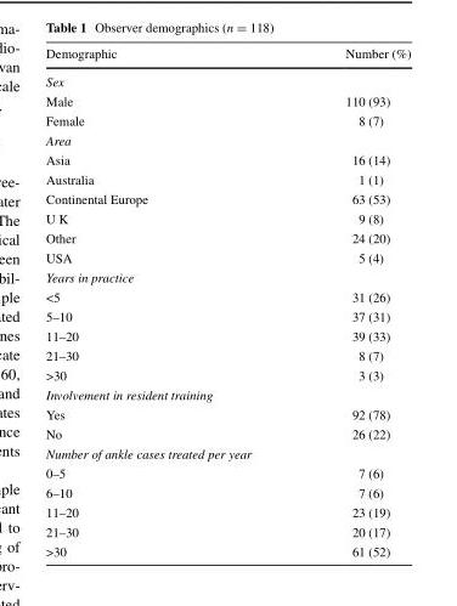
<table><thead><tr><td>Demographic</td><td>Number (%)</td></tr></thead><tbody><tr><td colspan="2">Sex</td></tr><tr><td>Male</td><td>110 (93)</td></tr><tr><td>Female</td><td>8 (7)</td></tr><tr><td colspan="2">Area</td></tr><tr><td>Asia</td><td>16 (14)</td></tr><tr><td>Australia</td><td>1 (1)</td></tr><tr><td>Continental Europe</td><td>63 (53)</td></tr><tr><td>U K</td><td>9 (8)</td></tr><tr><td>Other</td><td>24 (20)</td></tr><tr><td>USA</td><td>5 (4)</td></tr><tr><td colspan="2">Years in practice</td></tr><tr><td>&lt;5</td><td>31 (26)</td></tr><tr><td>5–10</td><td>37 (31)</td></tr><tr><td>11–20</td><td>39 (33)</td></tr><tr><td>21–30</td><td>8 (7)</td></tr><tr><td>&gt;30</td><td>3 (3)</td></tr><tr><td colspan="2">Involvement in resident training</td></tr><tr><td>Yes</td><td>92 (78)</td></tr><tr><td>No</td><td>26 (22)</td></tr><tr><td colspan="2">Number of ankle cases treated per year</td></tr><tr><td>0–5</td><td>7 (6)</td></tr><tr><td>6–10</td><td>7 (6)</td></tr><tr><td>11–20</td><td>23 (19)</td></tr><tr><td>21–30</td><td>20 (17)</td></tr><tr><td>&gt;30</td><td>61 (52)</td></tr></tbody></table>